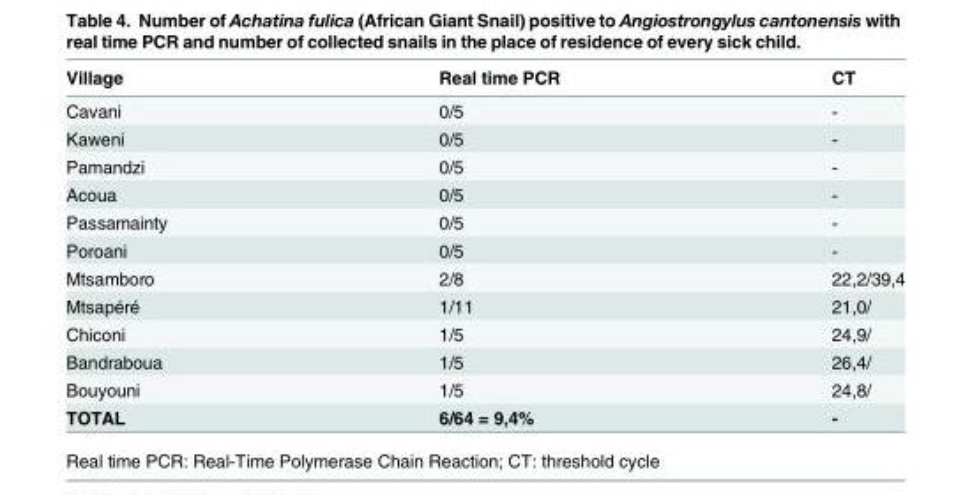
<table><thead><tr><td>Village</td><td>Real time PCR</td><td>CT</td></tr></thead><tbody><tr><td>Cavani</td><td>0/5</td><td>-</td></tr><tr><td>Kaweni</td><td>0/5</td><td>-</td></tr><tr><td>Pamandzi</td><td>0/5</td><td>-</td></tr><tr><td>Acoua</td><td>0/5</td><td>-</td></tr><tr><td>Passamainty</td><td>0/5</td><td>-</td></tr><tr><td>Poroani</td><td>0/5</td><td>-</td></tr><tr><td>Mtsamboro</td><td>2/8</td><td>22,2/39,4</td></tr><tr><td>Mtsapéré</td><td>1/11</td><td>21,0/</td></tr><tr><td>Chiconi</td><td>1/5</td><td>24,9/</td></tr><tr><td>Bandraboua</td><td>1/5</td><td>26,4/</td></tr><tr><td>Bouyouni</td><td>1/5</td><td>24,8/</td></tr><tr><td>TOTAL</td><td>6/64 = 9,4%</td><td>-</td></tr></tbody></table>